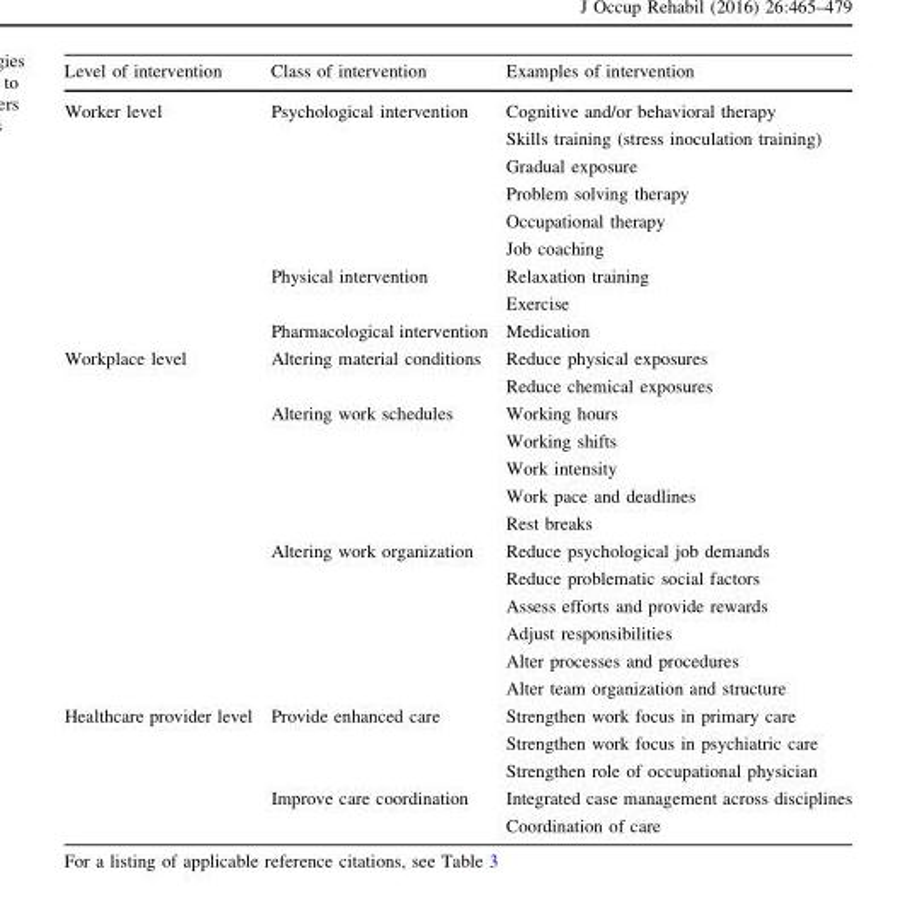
<table><thead><tr><td>Level of intervention</td><td>Class of intervention</td><td>Examples of intervention</td></tr></thead><tbody><tr><td rowspan="3">Worker level</td><td>Psychological intervention</td><td>Cognitive and/or behavioral therapy Skills training (stress inoculation training) Gradual exposure Problem solving therapy Occupational therapy Job coaching</td></tr><tr><td>Physical intervention</td><td>Relaxation training Exercise</td></tr><tr><td>Pharmacological intervention</td><td>Medication</td></tr><tr><td rowspan="3">Workplace level</td><td>Altering material conditions</td><td>Reduce physical exposures Reduce chemical exposures</td></tr><tr><td>Altering work schedules</td><td>Working hours Working shifts Work intensity Work pace and deadlines Rest breaks</td></tr><tr><td>Altering work organization</td><td>Reduce psychological job demands Reduce problematic social factors Assess efforts and provide rewards Adjust responsibilities Alter processes and procedures Alter team organization and structure</td></tr><tr><td rowspan="2">Healthcare provider level</td><td>Provide enhanced care</td><td>Strengthen work focus in primary care Strengthen work focus in psychiatric care Strengthen role of occupational physician</td></tr><tr><td>Improve care coordination</td><td>Integrated case management across disciplines Coordination of care</td></tr></tbody></table>